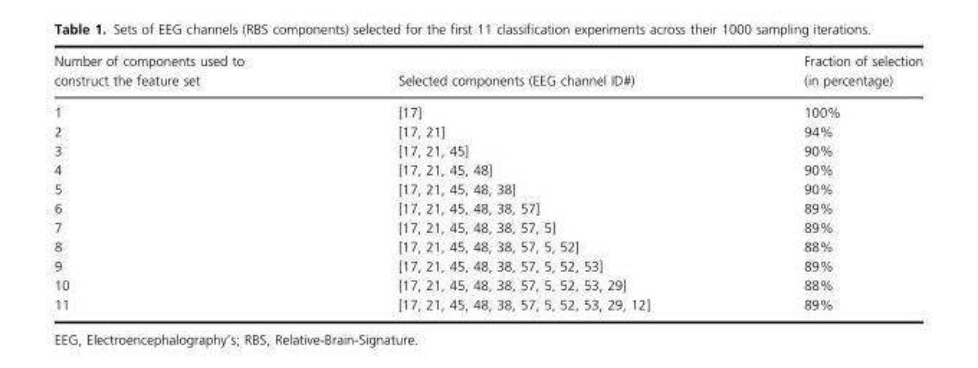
<table><thead><tr><td>Number of components used to construct the feature set</td><td>Selected components (EEG channel ID#)</td><td>Fraction of selection (in percentage)</td></tr></thead><tbody><tr><td>1</td><td>[17]</td><td>100%</td></tr><tr><td>2</td><td>[17, 21]</td><td>94%</td></tr><tr><td>3</td><td>[17, 21, 45]</td><td>90%</td></tr><tr><td>4</td><td>[17, 21, 45, 48]</td><td>90%</td></tr><tr><td>5</td><td>[17, 21, 45, 48, 38]</td><td>90%</td></tr><tr><td>6</td><td>[17, 21, 45, 48, 38, 57]</td><td>89%</td></tr><tr><td>7</td><td>[17, 21, 45, 48, 38, 57, 5]</td><td>89%</td></tr><tr><td>8</td><td>[17, 21, 45, 48, 38, 57, 5, 52]</td><td>88%</td></tr><tr><td>9</td><td>[17, 21, 45, 48, 38, 57, 5, 52, 53]</td><td>89%</td></tr><tr><td>10</td><td>[17, 21, 45, 48, 38, 57, 5, 52, 53, 29]</td><td>88%</td></tr><tr><td>11</td><td>[17, 21, 45, 48, 38, 57, 5, 52, 53, 29, 12]</td><td>89%</td></tr></tbody></table>